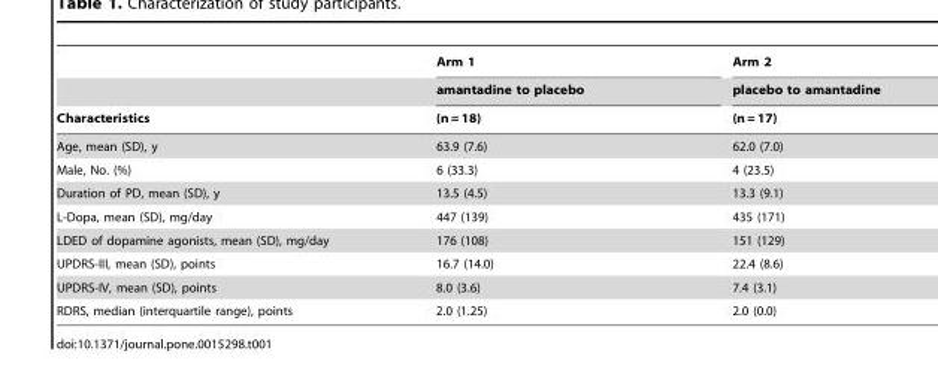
<table><thead><tr><td rowspan="3">Characteristics</td><td rowspan="3">Arm 1 amantadine to placebo (n = 18)</td><td rowspan="3">Arm 2 placebo to amantadine (n = 17)</td></tr><tr></tr><tr></tr></thead><tbody><tr><td>Age, mean (SD), y</td><td>63.9 (7.6)</td><td>62.0 (7.0)</td></tr><tr><td>Male, No. (%)</td><td>6 (33.3)</td><td>4 (23.5)</td></tr><tr><td>Duration of PD, mean (SD), y</td><td>13.5 (4.5)</td><td>13.3 (9.1)</td></tr><tr><td>L-Dopa, mean (SD), mg/day</td><td>447 (139)</td><td>435 (171)</td></tr><tr><td>LDED of dopamine agonists, mean (SD), mg/day</td><td>176 (108)</td><td>151 (129)</td></tr><tr><td>UPDRS-III, mean (SD), points</td><td>16.7 (14.0)</td><td>22.4 (8.6)</td></tr><tr><td>UPDRS-IV, mean (SD), points</td><td>8.0 (3.6)</td><td>7.4 (3.1)</td></tr><tr><td>RDRS, median (interquartile range), points</td><td>2.0 (1.25)</td><td>2.0 (0.0)</td></tr></tbody></table>